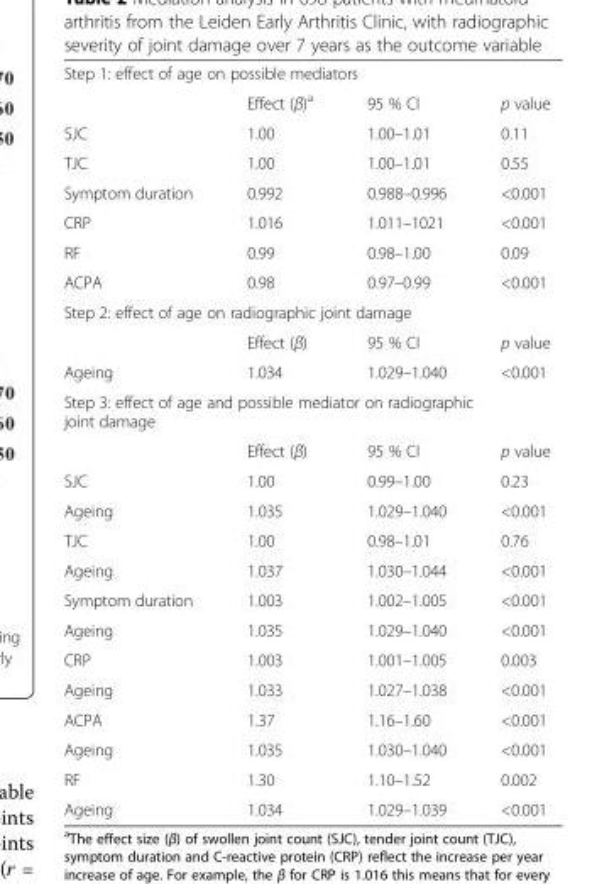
<table><tbody><tr><td colspan="4">Step 1: effect of age on possible mediators</td></tr><tr><td></td><td>Effect (β)<sup>a</sup></td><td>95 % CI</td><td>p value</td></tr><tr><td>SJC</td><td>1.00</td><td>1.00–1.01</td><td>0.11</td></tr><tr><td>TJC</td><td>1.00</td><td>1.00–1.01</td><td>0.55</td></tr><tr><td>Symptom duration</td><td>0.992</td><td>0.988–0.996</td><td>&lt;0.001</td></tr><tr><td>CRP</td><td>1.016</td><td>1.011–1021</td><td>&lt;0.001</td></tr><tr><td>RF</td><td>0.99</td><td>0.98–1.00</td><td>0.09</td></tr><tr><td>ACPA</td><td>0.98</td><td>0.97–0.99</td><td>&lt;0.001</td></tr><tr><td colspan="4">Step 2: effect of age on radiographic joint damage</td></tr><tr><td></td><td>Effect (β)</td><td>95 % CI</td><td>p value</td></tr><tr><td>Ageing</td><td>1.034</td><td>1.029–1.040</td><td>&lt;0.001</td></tr><tr><td colspan="4">Step 3: effect of age and possible mediator on radiographic joint damage</td></tr><tr><td></td><td>Effect (β)</td><td>95 % CI</td><td>p value</td></tr><tr><td>SJC</td><td>1.00</td><td>0.99–1.00</td><td>0.23</td></tr><tr><td>Ageing</td><td>1.035</td><td>1.029–1.040</td><td>&lt;0.001</td></tr><tr><td>TJC</td><td>1.00</td><td>0.98–1.01</td><td>0.76</td></tr><tr><td>Ageing</td><td>1.037</td><td>1.030–1.044</td><td>&lt;0.001</td></tr><tr><td>Symptom duration</td><td>1.003</td><td>1.002–1.005</td><td>&lt;0.001</td></tr><tr><td>Ageing</td><td>1.035</td><td>1.029–1.040</td><td>&lt;0.001</td></tr><tr><td>CRP</td><td>1.003</td><td>1.001–1.005</td><td>0.003</td></tr><tr><td>Ageing</td><td>1.033</td><td>1.027–1.038</td><td>&lt;0.001</td></tr><tr><td>ACPA</td><td>1.37</td><td>1.16–1.60</td><td>&lt;0.001</td></tr><tr><td>Ageing</td><td>1.035</td><td>1.030–1.040</td><td>&lt;0.001</td></tr><tr><td>RF</td><td>1.30</td><td>1.10–1.52</td><td>0.002</td></tr><tr><td>Ageing</td><td>1.034</td><td>1.029–1.039</td><td>&lt;0.001</td></tr></tbody></table>